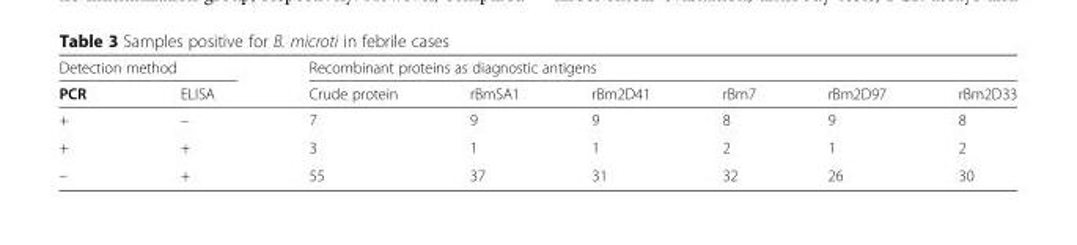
<table><thead><tr><td colspan="2">Detection method</td><td colspan="6">Recombinant proteins as diagnostic antigens</td></tr><tr><td>PCR</td><td>ELISA</td><td>Crude protein</td><td>rBmSA1</td><td>rBm2D41</td><td>rBm7</td><td>rBm2D97</td><td>rBm2D33</td></tr></thead><tbody><tr><td>+</td><td>–</td><td>7</td><td>9</td><td>9</td><td>8</td><td>9</td><td>8</td></tr><tr><td>+</td><td>+</td><td>3</td><td>1</td><td>1</td><td>2</td><td>1</td><td>2</td></tr><tr><td>–</td><td>+</td><td>55</td><td>37</td><td>31</td><td>32</td><td>26</td><td>30</td></tr></tbody></table>